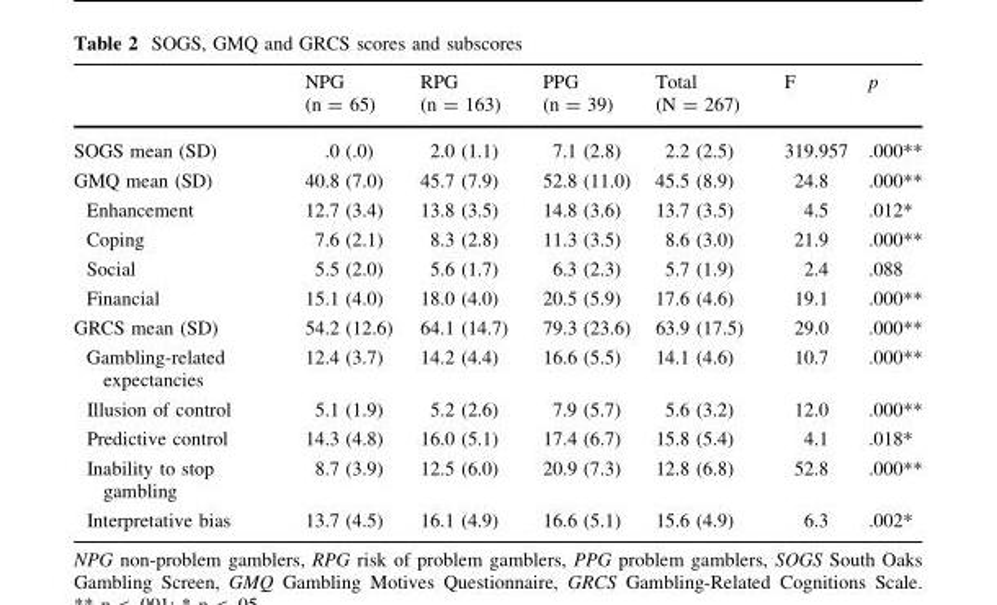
<table><thead><tr><td></td><td>NPG (n = 65)</td><td>RPG (n = 163)</td><td>PPG (n = 39)</td><td>Total (N = 267)</td><td>F</td><td>p</td></tr></thead><tbody><tr><td>SOGS mean (SD)</td><td>.0 (.0)</td><td>2.0 (1.1)</td><td>7.1 (2.8)</td><td>2.2 (2.5)</td><td>319.957</td><td>.000**</td></tr><tr><td>GMQ mean (SD)</td><td>40.8 (7.0)</td><td>45.7 (7.9)</td><td>52.8 (11.0)</td><td>45.5 (8.9)</td><td>24.8</td><td>.000**</td></tr><tr><td>Enhancement</td><td>12.7 (3.4)</td><td>13.8 (3.5)</td><td>14.8 (3.6)</td><td>13.7 (3.5)</td><td>4.5</td><td>.012*</td></tr><tr><td>Coping</td><td>7.6 (2.1)</td><td>8.3 (2.8)</td><td>11.3 (3.5)</td><td>8.6 (3.0)</td><td>21.9</td><td>.000**</td></tr><tr><td>Social</td><td>5.5 (2.0)</td><td>5.6 (1.7)</td><td>6.3 (2.3)</td><td>5.7 (1.9)</td><td>2.4</td><td>.088</td></tr><tr><td>Financial</td><td>15.1 (4.0)</td><td>18.0 (4.0)</td><td>20.5 (5.9)</td><td>17.6 (4.6)</td><td>19.1</td><td>.000**</td></tr><tr><td>GRCS mean (SD)</td><td>54.2 (12.6)</td><td>64.1 (14.7)</td><td>79.3 (23.6)</td><td>63.9 (17.5)</td><td>29.0</td><td>.000**</td></tr><tr><td>Gambling-related expectancies</td><td>12.4 (3.7)</td><td>14.2 (4.4)</td><td>16.6 (5.5)</td><td>14.1 (4.6)</td><td>10.7</td><td>.000**</td></tr><tr><td>Illusion of control</td><td>5.1 (1.9)</td><td>5.2 (2.6)</td><td>7.9 (5.7)</td><td>5.6 (3.2)</td><td>12.0</td><td>.000**</td></tr><tr><td>Predictive control</td><td>14.3 (4.8)</td><td>16.0 (5.1)</td><td>17.4 (6.7)</td><td>15.8 (5.4)</td><td>4.1</td><td>.018*</td></tr><tr><td>Inability to stop gambling</td><td>8.7 (3.9)</td><td>12.5 (6.0)</td><td>20.9 (7.3)</td><td>12.8 (6.8)</td><td>52.8</td><td>.000**</td></tr><tr><td>Interpretative bias</td><td>13.7 (4.5)</td><td>16.1 (4.9)</td><td>16.6 (5.1)</td><td>15.6 (4.9)</td><td>6.3</td><td>.002*</td></tr></tbody></table>